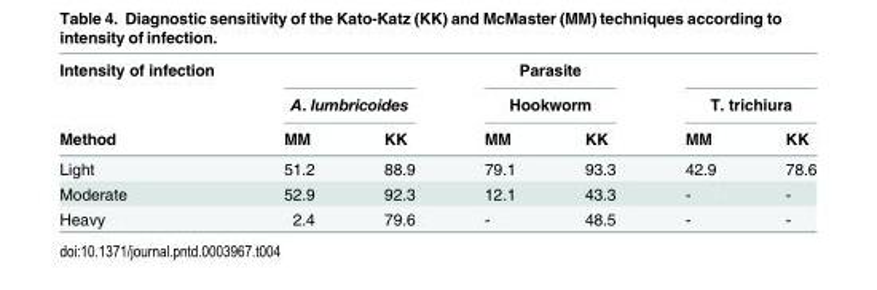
<table><thead><tr><td rowspan="3">Intensity of infection Method</td><td></td><td></td><td rowspan="2" colspan="2">Parasite Hookworm</td><td></td><td></td></tr><tr><td colspan="2">A. lumbricoides</td><td colspan="2">T. trichiura</td></tr><tr><td>MM</td><td>KK</td><td>MM</td><td>KK</td><td>MM</td><td>KK</td></tr></thead><tbody><tr><td>Light</td><td>51.2</td><td>88.9</td><td>79.1</td><td>93.3</td><td>42.9</td><td>78.6</td></tr><tr><td>Moderate</td><td>52.9</td><td>92.3</td><td>12.1</td><td>43.3</td><td>-</td><td>-</td></tr><tr><td>Heavy</td><td>2.4</td><td>79.6</td><td>-</td><td>48.5</td><td>-</td><td>-</td></tr></tbody></table>